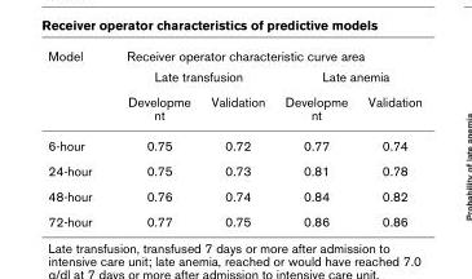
<table><thead><tr><td rowspan="3">Model</td><td colspan="4">Receiver operator characteristic curve area</td></tr><tr><td colspan="2">Late transfusion</td><td colspan="2">Late anemia</td></tr><tr><td>Developme nt</td><td>Validation</td><td>Developme nt</td><td>Validation</td></tr></thead><tbody><tr><td>6-hour</td><td>0.75</td><td>0.72</td><td>0.77</td><td>0.74</td></tr><tr><td>24-hour</td><td>0.75</td><td>0.73</td><td>0.81</td><td>0.78</td></tr><tr><td>48-hour</td><td>0.76</td><td>0.74</td><td>0.84</td><td>0.82</td></tr><tr><td>72-hour</td><td>0.77</td><td>0.75</td><td>0.86</td><td>0.86</td></tr></tbody></table>